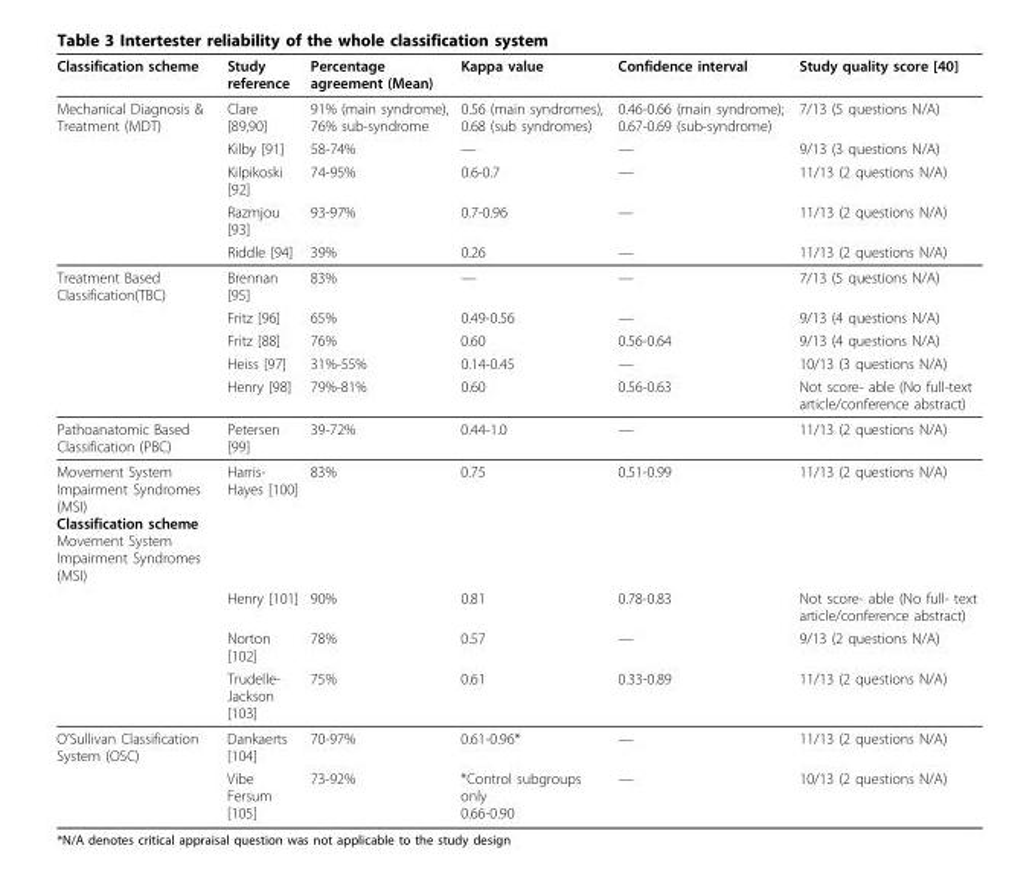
<table><thead><tr><td>Classification scheme</td><td>Study reference</td><td>Percentage agreement (Mean)</td><td>Kappa value</td><td>Confidence interval</td><td>Study quality score [40]</td></tr></thead><tbody><tr><td rowspan="5">Mechanical Diagnosis &amp; Treatment (MDT)</td><td>Clare [89,90]</td><td>91% (main syndrome), 76% sub-syndrome</td><td>0.56 (main syndromes), 0.68 (sub syndromes)</td><td>0.46-0.66 (main syndrome); 0.67-0.69 (sub-syndrome)</td><td>7/13 (5 questions N/A)</td></tr><tr><td>Kilby [91]</td><td>58-74%</td><td>—</td><td>—</td><td>9/13 (3 questions N/A)</td></tr><tr><td>Kilpikoski [92]</td><td>74-95%</td><td>0.6-0.7</td><td>—</td><td>11/13 (2 questions N/A)</td></tr><tr><td>Razmjou [93]</td><td>93-97%</td><td>0.7-0.96</td><td>—</td><td>11/13 (2 questions N/A)</td></tr><tr><td>Riddle [94]</td><td>39%</td><td>0.26</td><td>—</td><td>11/13 (2 questions N/A)</td></tr><tr><td rowspan="5">Treatment Based Classification(TBC)</td><td>Brennan [95]</td><td>83%</td><td>—</td><td>—</td><td>7/13 (5 questions N/A)</td></tr><tr><td>Fritz [96]</td><td>65%</td><td>0.49-0.56</td><td>—</td><td>9/13 (4 questions N/A)</td></tr><tr><td>Fritz [88]</td><td>76%</td><td>0.60</td><td>0.56-0.64</td><td>9/13 (4 questions N/A)</td></tr><tr><td>Heiss [97]</td><td>31%-55%</td><td>0.14-0.45</td><td>—</td><td>10/13 (3 questions N/A)</td></tr><tr><td>Henry [98]</td><td>79%-81%</td><td>0.60</td><td>0.56-0.63</td><td>Not score- able (No full-text article/conference abstract)</td></tr><tr><td>Pathoanatomic Based Classification (PBC)</td><td>Petersen [99]</td><td>39-72%</td><td>0.44-1.0</td><td>—</td><td>11/13 (2 questions N/A)</td></tr><tr><td rowspan="4">Movement System Impairment Syndromes (MSI) Classification scheme Movement System Impairment Syndromes (MSI)</td><td>Harris- Hayes [100]</td><td>83%</td><td>0.75</td><td>0.51-0.99</td><td>11/13 (2 questions N/A)</td></tr><tr><td>Henry [101]</td><td>90%</td><td>0.81</td><td>0.78-0.83</td><td>Not score- able (No full- text article/conference abstract)</td></tr><tr><td>Norton [102]</td><td>78%</td><td>0.57</td><td>—</td><td>9/13 (2 questions N/A)</td></tr><tr><td>Trudelle- Jackson [103]</td><td>75%</td><td>0.61</td><td>0.33-0.89</td><td>11/13 (2 questions N/A)</td></tr><tr><td rowspan="2">O’Sullivan Classification System (OSC)</td><td>Dankaerts [104]</td><td>70-97%</td><td>0.61-0.96*</td><td>—</td><td>11/13 (2 questions N/A)</td></tr><tr><td>Vibe Fersum [105]</td><td>73-92%</td><td>*Control subgroups only 0.66-0.90</td><td>—</td><td>10/13 (2 questions N/A)</td></tr></tbody></table>